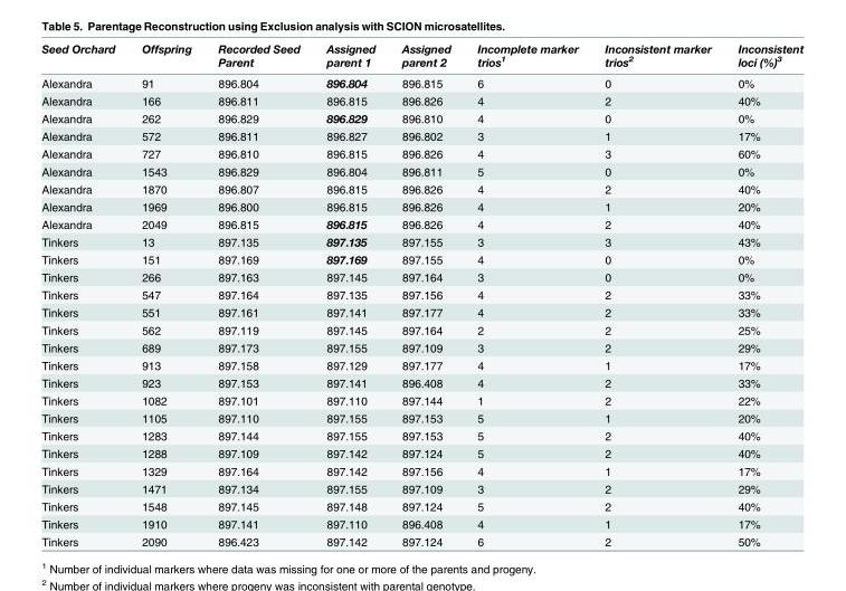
<table><thead><tr><td>Seed Orchard</td><td>Offspring</td><td>Recorded Seed Parent</td><td>Assigned parent 1</td><td>Assigned parent 2</td><td>Incomplete marker trios<sup>1</sup></td><td>Inconsistent marker trios<sup>2</sup></td><td>Inconsistent loci (%)<sup>3</sup></td></tr></thead><tbody><tr><td>Alexandra</td><td>91</td><td>896.804</td><td>896.804</td><td>896.815</td><td>6</td><td>0</td><td>0%</td></tr><tr><td>Alexandra</td><td>166</td><td>896.811</td><td>896.815</td><td>896.826</td><td>4</td><td>2</td><td>40%</td></tr><tr><td>Alexandra</td><td>262</td><td>896.829</td><td>896.829</td><td>896.810</td><td>4</td><td>0</td><td>0%</td></tr><tr><td>Alexandra</td><td>572</td><td>896.811</td><td>896.827</td><td>896.802</td><td>3</td><td>1</td><td>17%</td></tr><tr><td>Alexandra</td><td>727</td><td>896.810</td><td>896.815</td><td>896.826</td><td>4</td><td>3</td><td>60%</td></tr><tr><td>Alexandra</td><td>1543</td><td>896.829</td><td>896.804</td><td>896.811</td><td>5</td><td>0</td><td>0%</td></tr><tr><td>Alexandra</td><td>1870</td><td>896.807</td><td>896.815</td><td>896.826</td><td>4</td><td>2</td><td>40%</td></tr><tr><td>Alexandra</td><td>1969</td><td>896.800</td><td>896.815</td><td>896.826</td><td>4</td><td>1</td><td>20%</td></tr><tr><td>Alexandra</td><td>2049</td><td>896.815</td><td>896.815</td><td>896.826</td><td>4</td><td>2</td><td>40%</td></tr><tr><td>Tinkers</td><td>13</td><td>897.135</td><td>897.135</td><td>897.155</td><td>3</td><td>3</td><td>43%</td></tr><tr><td>Tinkers</td><td>151</td><td>897.169</td><td>897.169</td><td>897.155</td><td>4</td><td>0</td><td>0%</td></tr><tr><td>Tinkers</td><td>266</td><td>897.163</td><td>897.145</td><td>897.164</td><td>3</td><td>0</td><td>0%</td></tr><tr><td>Tinkers</td><td>547</td><td>897.164</td><td>897.135</td><td>897.156</td><td>4</td><td>2</td><td>33%</td></tr><tr><td>Tinkers</td><td>551</td><td>897.161</td><td>897.141</td><td>897.177</td><td>4</td><td>2</td><td>33%</td></tr><tr><td>Tinkers</td><td>562</td><td>897.119</td><td>897.145</td><td>897.164</td><td>2</td><td>2</td><td>25%</td></tr><tr><td>Tinkers</td><td>689</td><td>897.173</td><td>897.155</td><td>897.109</td><td>3</td><td>2</td><td>29%</td></tr><tr><td>Tinkers</td><td>913</td><td>897.158</td><td>897.129</td><td>897.177</td><td>4</td><td>1</td><td>17%</td></tr><tr><td>Tinkers</td><td>923</td><td>897.153</td><td>897.141</td><td>896.408</td><td>4</td><td>2</td><td>33%</td></tr><tr><td>Tinkers</td><td>1082</td><td>897.101</td><td>897.110</td><td>897.144</td><td>1</td><td>2</td><td>22%</td></tr><tr><td>Tinkers</td><td>1105</td><td>897.110</td><td>897.155</td><td>897.153</td><td>5</td><td>1</td><td>20%</td></tr><tr><td>Tinkers</td><td>1283</td><td>897.144</td><td>897.155</td><td>897.153</td><td>5</td><td>2</td><td>40%</td></tr><tr><td>Tinkers</td><td>1288</td><td>897.109</td><td>897.142</td><td>897.124</td><td>5</td><td>2</td><td>40%</td></tr><tr><td>Tinkers</td><td>1329</td><td>897.164</td><td>897.142</td><td>897.156</td><td>4</td><td>1</td><td>17%</td></tr><tr><td>Tinkers</td><td>1471</td><td>897.134</td><td>897.155</td><td>897.109</td><td>3</td><td>2</td><td>29%</td></tr><tr><td>Tinkers</td><td>1548</td><td>897.145</td><td>897.148</td><td>897.124</td><td>5</td><td>2</td><td>40%</td></tr><tr><td>Tinkers</td><td>1910</td><td>897.141</td><td>897.110</td><td>896.408</td><td>4</td><td>1</td><td>17%</td></tr><tr><td>Tinkers</td><td>2090</td><td>896.423</td><td>897.142</td><td>897.124</td><td>6</td><td>2</td><td>50%</td></tr></tbody></table>